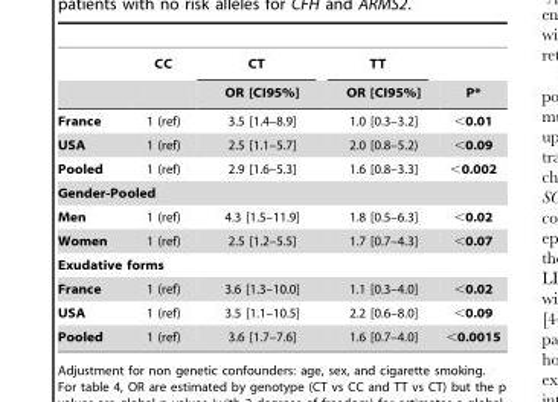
<table><thead><tr><td rowspan="2"></td><td rowspan="2">CC</td><td rowspan="2">CT OR [CI95%]</td><td rowspan="2">TT OR [CI95%]</td><td rowspan="2">P*</td></tr><tr></tr></thead><tbody><tr><td>France</td><td>1 (ref)</td><td>3.5 [1.4–8.9]</td><td>1.0 [0.3–3.2]</td><td>&lt;0.01</td></tr><tr><td>USA</td><td>1 (ref)</td><td>2.5 [1.1–5.7]</td><td>2.0 [0.8–5.2)</td><td>&lt;0.09</td></tr><tr><td>Pooled</td><td>1 (ref)</td><td>2.9 [1.6–5.3]</td><td>1.6 [0.8–3.3]</td><td>&lt;0.002</td></tr><tr><td colspan="5">Gender-Pooled</td></tr><tr><td>Men</td><td>1 (ref)</td><td>4.3 [1.5–11.9]</td><td>1.8 [0.5–6.3]</td><td>&lt;0.02</td></tr><tr><td>Women</td><td>1 (ref)</td><td>2.5 [1.2–5.5]</td><td>1.7 [0.7–4.3]</td><td>&lt;0.07</td></tr><tr><td colspan="5">Exudative forms</td></tr><tr><td>France</td><td>1 (ref)</td><td>3.6 [1.3–10.0]</td><td>1.1 [0.3–4.0]</td><td>&lt;0.02</td></tr><tr><td>USA</td><td>1 (ref)</td><td>3.5 [1.1–10.5]</td><td>2.2 [0.6–8.0]</td><td>&lt;0.09</td></tr><tr><td>Pooled</td><td>1 (ref)</td><td>3.6 [1.7–7.6]</td><td>1.6 [0.7–4.0]</td><td>&lt;0.0015</td></tr></tbody></table>